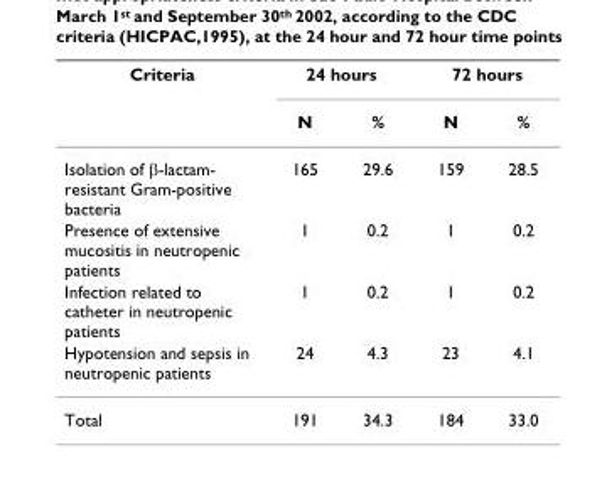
<table><thead><tr><td rowspan="2">Criteria</td><td colspan="2">24 hours</td><td colspan="2">72 hours</td></tr><tr><td>N</td><td>%</td><td>N</td><td>%</td></tr></thead><tbody><tr><td>Isolation of β-lactam- resistant Gram-positive bacteria</td><td>165</td><td>29.6</td><td>159</td><td>28.5</td></tr><tr><td>Presence of extensive mucositis in neutropenic patients</td><td>1</td><td>0.2</td><td>1</td><td>0.2</td></tr><tr><td>Infection related to catheter in neutropenic patients</td><td>1</td><td>0.2</td><td>1</td><td>0.2</td></tr><tr><td>Hypotension and sepsis in neutropenic patients</td><td>24</td><td>4.3</td><td>23</td><td>4.1</td></tr><tr><td>Total</td><td>191</td><td>34.3</td><td>184</td><td>33.0</td></tr></tbody></table>